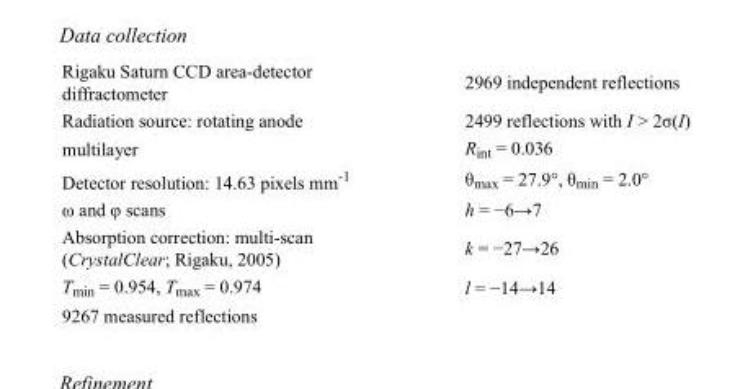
<table><tbody><tr><td>Rigaku Saturn CCD area-detector diffractometer</td><td>2969 independent reflections</td></tr><tr><td>Radiation source: rotating anode</td><td>2499 reflections with I &gt; 2σ(I)</td></tr><tr><td>multilayer</td><td>R<sub>int</sub> = 0.036</td></tr><tr><td>Detector resolution: 14.63 pixels mm<sup>-1</sup></td><td>θ<sub>max</sub> = 27.9°, θ<sub>min</sub> = 2.0°</td></tr><tr><td>ω and φ scans</td><td>h = −6→7</td></tr><tr><td>Absorption correction: multi-scan (CrystalClear; Rigaku, 2005)</td><td>k = −27→26</td></tr><tr><td>T<sub>min</sub> = 0.954, T<sub>max</sub> = 0.974</td><td>l = −14→14</td></tr><tr><td>9267 measured reflections</td><td></td></tr></tbody></table>